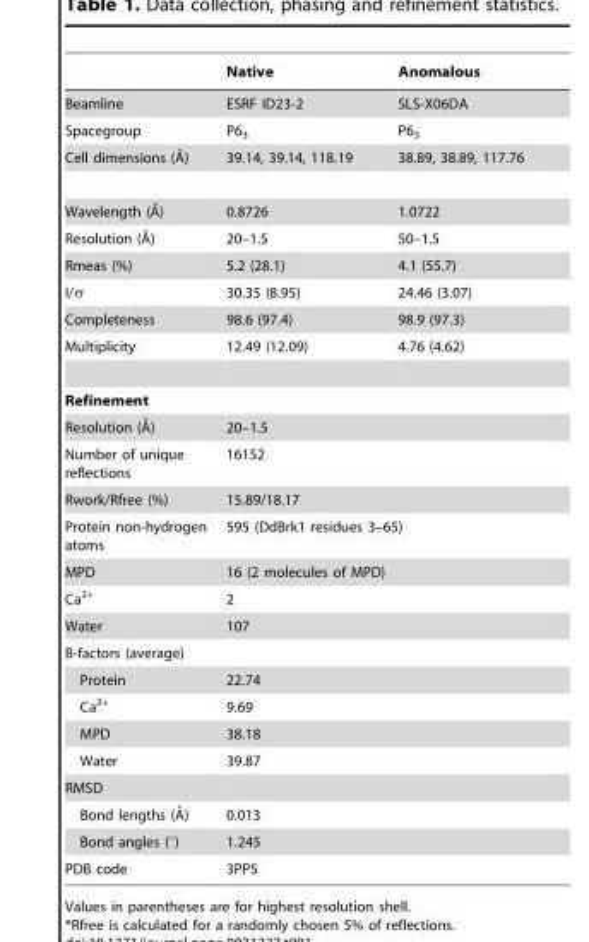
<table><thead><tr><td></td><td>Native</td><td>Anomalous</td></tr></thead><tbody><tr><td>Beamline</td><td>ESRF ID23-2</td><td>SLS-X06DA</td></tr><tr><td>Spacegroup</td><td>P6<sub>3</sub></td><td>P6<sub>3</sub></td></tr><tr><td>Cell dimensions (A˚)</td><td>39.14, 39.14, 118.19</td><td>38.89, 38.89, 117.76</td></tr><tr><td>Wavelength (A˚)</td><td>0.8726</td><td>1.0722</td></tr><tr><td>Resolution (A˚)</td><td>20–1.5</td><td>50–1.5</td></tr><tr><td>Rmeas (%)</td><td>5.2 (28.1)</td><td>4.1 (55.7)</td></tr><tr><td>I/σ</td><td>30.35 (8.95)</td><td>24.46 (3.07)</td></tr><tr><td>Completeness</td><td>98.6 (97.4)</td><td>98.9 (97.3)</td></tr><tr><td>Multiplicity</td><td>12.49 (12.09)</td><td>4.76 (4.62)</td></tr><tr><td colspan="3">Refinement</td></tr><tr><td>Resolution (A˚)</td><td colspan="2">20–1.5</td></tr><tr><td>Number of unique reflections</td><td colspan="2">16152</td></tr><tr><td>Rwork/Rfree (%)</td><td colspan="2">15.89/18.17</td></tr><tr><td>Protein non-hydrogen atoms</td><td colspan="2">595 (DdBrk1 residues 3–65)</td></tr><tr><td>MPD</td><td colspan="2">16 (2 molecules of MPD)</td></tr><tr><td>Ca<sup>2+</sup></td><td colspan="2">2</td></tr><tr><td>Water</td><td colspan="2">107</td></tr><tr><td colspan="3">B-factors (average)</td></tr><tr><td>Protein</td><td colspan="2">22.74</td></tr><tr><td>Ca<sup>2+</sup></td><td colspan="2">9.69</td></tr><tr><td>MPD</td><td colspan="2">38.18</td></tr><tr><td>Water</td><td colspan="2">39.87</td></tr><tr><td colspan="3">RMSD</td></tr><tr><td>Bond lengths (A˚)</td><td colspan="2">0.013</td></tr><tr><td>Bond angles (°)</td><td colspan="2">1.245</td></tr><tr><td>PDB code</td><td colspan="2">3PP5</td></tr></tbody></table>